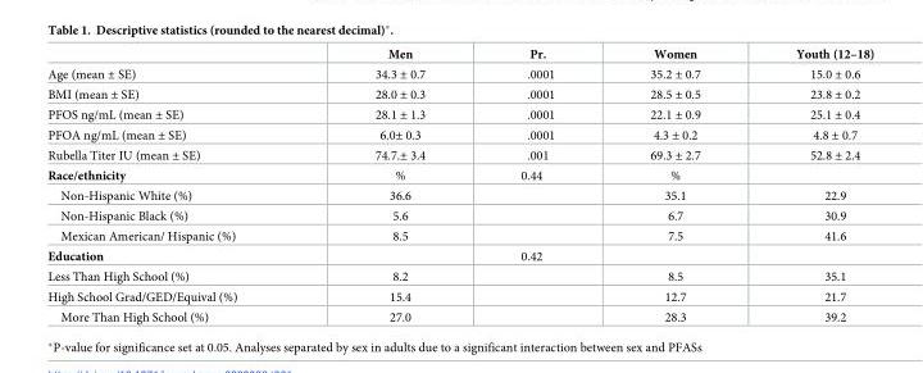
<table><thead><tr><td></td><td>Men</td><td>Pr.</td><td>Women</td><td>Youth (12–18)</td></tr></thead><tbody><tr><td>Age (mean ± SE)</td><td>34.3 ± 0.7</td><td>.0001</td><td>35.2 ± 0.7</td><td>15.0 ± 0.6</td></tr><tr><td>BMI (mean ± SE)</td><td>28.0 ± 0.3</td><td>.0001</td><td>28.5 ± 0.5</td><td>23.8 ± 0.2</td></tr><tr><td>PFOS ng/mL (mean ± SE)</td><td>28.1 ± 1.3</td><td>.0001</td><td>22.1 ± 0.9</td><td>25.1 ± 0.4</td></tr><tr><td>PFOA ng/mL (mean ± SE)</td><td>6.0± 0.3</td><td>.0001</td><td>4.3 ± 0.2</td><td>4.8 ± 0.7</td></tr><tr><td>Rubella Titer IU (mean ± SE)</td><td>74.7.± 3.4</td><td>.001</td><td>69.3 ± 2.7</td><td>52.8 ± 2.4</td></tr><tr><td>Race/ethnicity</td><td>%</td><td>0.44</td><td>%</td><td></td></tr><tr><td>Non-Hispanic White (%)</td><td>36.6</td><td></td><td>35.1</td><td>22.9</td></tr><tr><td>Non-Hispanic Black (%)</td><td>5.6</td><td></td><td>6.7</td><td>30.9</td></tr><tr><td>Mexican American/ Hispanic (%)</td><td>8.5</td><td></td><td>7.5</td><td>41.6</td></tr><tr><td>Education</td><td></td><td>0.42</td><td></td><td></td></tr><tr><td>Less Than High School (%)</td><td>8.2</td><td></td><td>8.5</td><td>35.1</td></tr><tr><td>High School Grad/GED/Equival (%)</td><td>15.4</td><td></td><td>12.7</td><td>21.7</td></tr><tr><td>More Than High School (%)</td><td>27.0</td><td></td><td>28.3</td><td>39.2</td></tr></tbody></table>